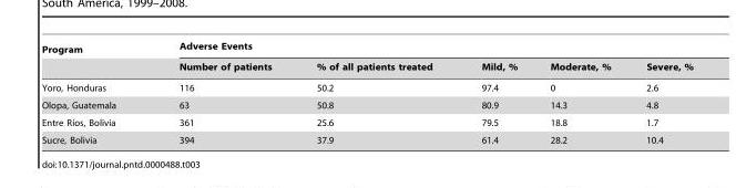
<table><thead><tr><td rowspan="2">Program</td><td colspan="5">Adverse Events</td></tr><tr><td>Number of patients</td><td>% of all patients treated</td><td>Mild, %</td><td>Moderate, %</td><td>Severe, %</td></tr></thead><tbody><tr><td>Yoro, Honduras</td><td>116</td><td>50.2</td><td>97.4</td><td>0</td><td>2.6</td></tr><tr><td>Olopa, Guatemala</td><td>63</td><td>50.8</td><td>80.9</td><td>14.3</td><td>4.8</td></tr><tr><td>Entre Rı´os, Bolivia</td><td>361</td><td>25.6</td><td>79.5</td><td>18.8</td><td>1.7</td></tr><tr><td>Sucre, Bolivia</td><td>394</td><td>37.9</td><td>61.4</td><td>28.2</td><td>10.4</td></tr></tbody></table>